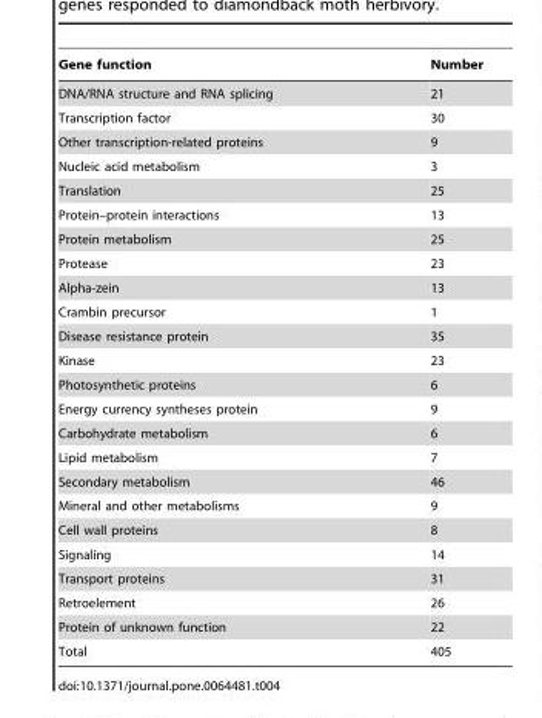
<table><thead><tr><td>Gene function</td><td>Number</td></tr></thead><tbody><tr><td>DNA/RNA structure and RNA splicing</td><td>21</td></tr><tr><td>Transcription factor</td><td>30</td></tr><tr><td>Other transcription-related proteins</td><td>9</td></tr><tr><td>Nucleic acid metabolism</td><td>3</td></tr><tr><td>Translation</td><td>25</td></tr><tr><td>Protein–protein interactions</td><td>13</td></tr><tr><td>Protein metabolism</td><td>25</td></tr><tr><td>Protease</td><td>23</td></tr><tr><td>Alpha-zein</td><td>13</td></tr><tr><td>Crambin precursor</td><td>1</td></tr><tr><td>Disease resistance protein</td><td>35</td></tr><tr><td>Kinase</td><td>23</td></tr><tr><td>Photosynthetic proteins</td><td>6</td></tr><tr><td>Energy currency syntheses protein</td><td>9</td></tr><tr><td>Carbohydrate metabolism</td><td>6</td></tr><tr><td>Lipid metabolism</td><td>7</td></tr><tr><td>Secondary metabolism</td><td>46</td></tr><tr><td>Mineral and other metabolisms</td><td>9</td></tr><tr><td>Cell wall proteins</td><td>8</td></tr><tr><td>Signaling</td><td>14</td></tr><tr><td>Transport proteins</td><td>31</td></tr><tr><td>Retroelement</td><td>26</td></tr><tr><td>Protein of unknown function</td><td>22</td></tr><tr><td>Total</td><td>405</td></tr></tbody></table>